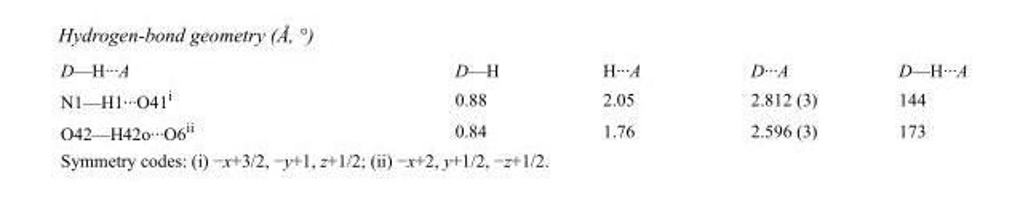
<table><tbody><tr><td>D—H···A</td><td>D—H</td><td>H···A</td><td>D···A</td><td>D—H···A</td></tr><tr><td>N1—H1···O41<sup>i</sup></td><td>0.88</td><td>2.05</td><td>2.812 (3)</td><td>144</td></tr><tr><td>O42—H42o···O6<sup>ii</sup></td><td>0.84</td><td>1.76</td><td>2.596 (3)</td><td>173</td></tr></tbody></table>